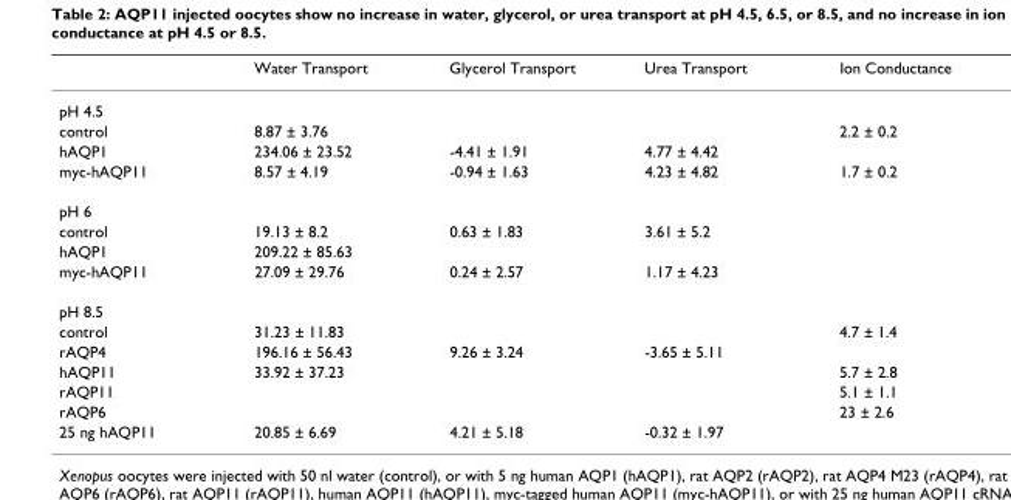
<table><thead><tr><td></td><td>Water Transport</td><td>Glycerol Transport</td><td>Urea Transport</td><td>Ion Conductance</td></tr></thead><tbody><tr><td colspan="5">pH 4.5</td></tr><tr><td>control</td><td>8.87 ± 3.76</td><td></td><td></td><td>2.2 ± 0.2</td></tr><tr><td>hAQP1</td><td>234.06 ± 23.52</td><td>-4.41 ± 1.91</td><td>4.77 ± 4.42</td><td></td></tr><tr><td>myc-hAQP11</td><td>8.57 ± 4.19</td><td>-0.94 ± 1.63</td><td>4.23 ± 4.82</td><td>1.7 ± 0.2</td></tr><tr><td colspan="5">pH 6</td></tr><tr><td>control</td><td>19.13 ± 8.2</td><td>0.63 ± 1.83</td><td>3.61 ± 5.2</td><td></td></tr><tr><td>hAQP1</td><td>209.22 ± 85.63</td><td></td><td></td><td></td></tr><tr><td>myc-hAQP11</td><td>27.09 ± 29.76</td><td>0.24 ± 2.57</td><td>1.17 ± 4.23</td><td></td></tr><tr><td colspan="5">pH 8.5</td></tr><tr><td>control</td><td>31.23 ± 11.83</td><td></td><td></td><td>4.7 ± 1.4</td></tr><tr><td>rAQP4</td><td>196.16 ± 56.43</td><td>9.26 ± 3.24</td><td>-3.65 ± 5.11</td><td></td></tr><tr><td>hAQP11</td><td>33.92 ± 37.23</td><td></td><td></td><td>5.7 ± 2.8</td></tr><tr><td>rAQP11</td><td></td><td></td><td></td><td>5.1 ± 1.1</td></tr><tr><td>rAQP6</td><td></td><td></td><td></td><td>23 ± 2.6</td></tr><tr><td>25 ng hAQP11</td><td>20.85 ± 6.69</td><td>4.21 ± 5.18</td><td>-0.32 ± 1.97</td><td></td></tr></tbody></table>